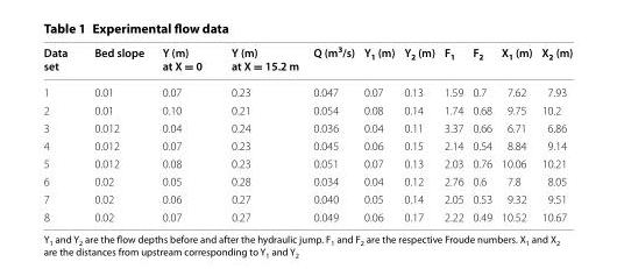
<table><thead><tr><td>Data set</td><td>Bed slope</td><td>Y (m) at X = 0</td><td>Y (m) at X = 15.2 m</td><td>Q (m<sup>3</sup>/s)</td><td>Y<sub>1</sub> (m)</td><td>Y<sub>2</sub> (m)</td><td>F<sub>1</sub></td><td>F<sub>2</sub></td><td>X<sub>1</sub> (m)</td><td>X<sub>2</sub> (m)</td></tr></thead><tbody><tr><td>1</td><td>0.01</td><td>0.07</td><td>0.23</td><td>0.047</td><td>0.07</td><td>0.13</td><td>1.59</td><td>0.7</td><td>7.62</td><td>7.93</td></tr><tr><td>2</td><td>0.01</td><td>0.10</td><td>0.21</td><td>0.054</td><td>0.08</td><td>0.14</td><td>1.74</td><td>0.68</td><td>9.75</td><td>10.2</td></tr><tr><td>3</td><td>0.012</td><td>0.04</td><td>0.24</td><td>0.036</td><td>0.04</td><td>0.11</td><td>3.37</td><td>0.66</td><td>6.71</td><td>6.86</td></tr><tr><td>4</td><td>0.012</td><td>0.07</td><td>0.23</td><td>0.045</td><td>0.06</td><td>0.15</td><td>2.14</td><td>0.54</td><td>8.84</td><td>9.14</td></tr><tr><td>5</td><td>0.012</td><td>0.08</td><td>0.23</td><td>0.051</td><td>0.07</td><td>0.13</td><td>2.03</td><td>0.76</td><td>10.06</td><td>10.21</td></tr><tr><td>6</td><td>0.02</td><td>0.05</td><td>0.28</td><td>0.034</td><td>0.04</td><td>0.12</td><td>2.76</td><td>0.6</td><td>7.8</td><td>8.05</td></tr><tr><td>7</td><td>0.02</td><td>0.06</td><td>0.27</td><td>0.040</td><td>0.05</td><td>0.14</td><td>2.05</td><td>0.53</td><td>9.32</td><td>9.51</td></tr><tr><td>8</td><td>0.02</td><td>0.07</td><td>0.27</td><td>0.049</td><td>0.06</td><td>0.17</td><td>2.22</td><td>0.49</td><td>10.52</td><td>10.67</td></tr></tbody></table>